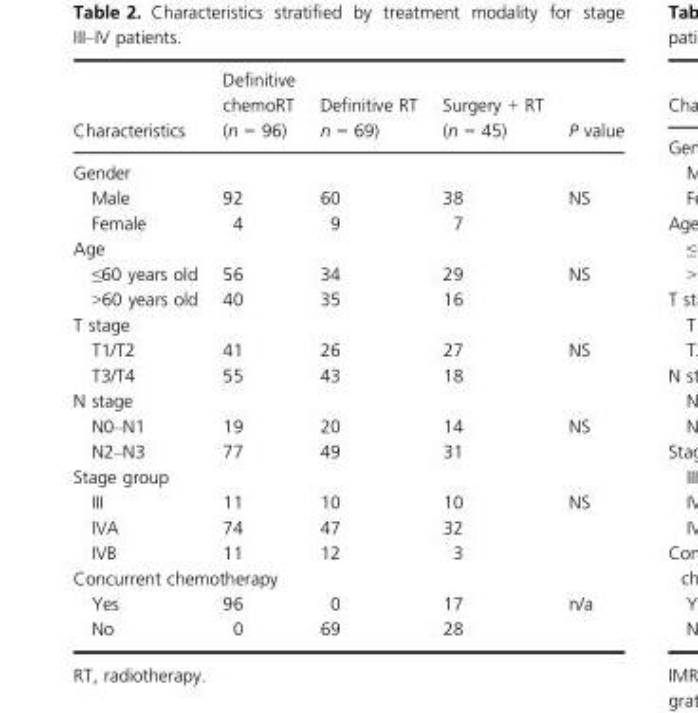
<table><thead><tr><td>Characteristics</td><td>Definitive chemoRT (n = 96)</td><td>Definitive RT n = 69)</td><td>Surgery + RT (n = 45)</td><td>P value</td></tr></thead><tbody><tr><td colspan="5">Gender</td></tr><tr><td>Male</td><td>92</td><td>60</td><td>38</td><td>NS</td></tr><tr><td>Female</td><td>4</td><td>9</td><td>7</td><td></td></tr><tr><td colspan="5">Age</td></tr><tr><td>≤60 years old</td><td>56</td><td>34</td><td>29</td><td>NS</td></tr><tr><td>&gt;60 years old</td><td>40</td><td>35</td><td>16</td><td></td></tr><tr><td colspan="5">T stage</td></tr><tr><td>T1/T2</td><td>41</td><td>26</td><td>27</td><td>NS</td></tr><tr><td>T3/T4</td><td>55</td><td>43</td><td>18</td><td></td></tr><tr><td colspan="5">N stage</td></tr><tr><td>N0–N1</td><td>19</td><td>20</td><td>14</td><td>NS</td></tr><tr><td>N2–N3</td><td>77</td><td>49</td><td>31</td><td></td></tr><tr><td colspan="5">Stage group</td></tr><tr><td>III</td><td>11</td><td>10</td><td>10</td><td>NS</td></tr><tr><td>IVA</td><td>74</td><td>47</td><td>32</td><td></td></tr><tr><td>IVB</td><td>11</td><td>12</td><td>3</td><td></td></tr><tr><td colspan="5">Concurrent chemotherapy</td></tr><tr><td>Yes</td><td>96</td><td>0</td><td>17</td><td>n/a</td></tr><tr><td>No</td><td>0</td><td>69</td><td>28</td><td></td></tr></tbody></table>